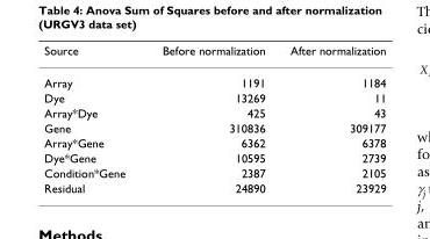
<table><thead><tr><td>Source</td><td>Before normalization</td><td>After normalization</td></tr></thead><tbody><tr><td>Array</td><td>1191</td><td>1184</td></tr><tr><td>Dye</td><td>13269</td><td>11</td></tr><tr><td>Array*Dye</td><td>425</td><td>43</td></tr><tr><td>Gene</td><td>310836</td><td>309177</td></tr><tr><td>Array*Gene</td><td>6362</td><td>6378</td></tr><tr><td>Dye*Gene</td><td>10595</td><td>2739</td></tr><tr><td>Condition*Gene</td><td>2387</td><td>2105</td></tr><tr><td>Residual</td><td>24890</td><td>23929</td></tr></tbody></table>